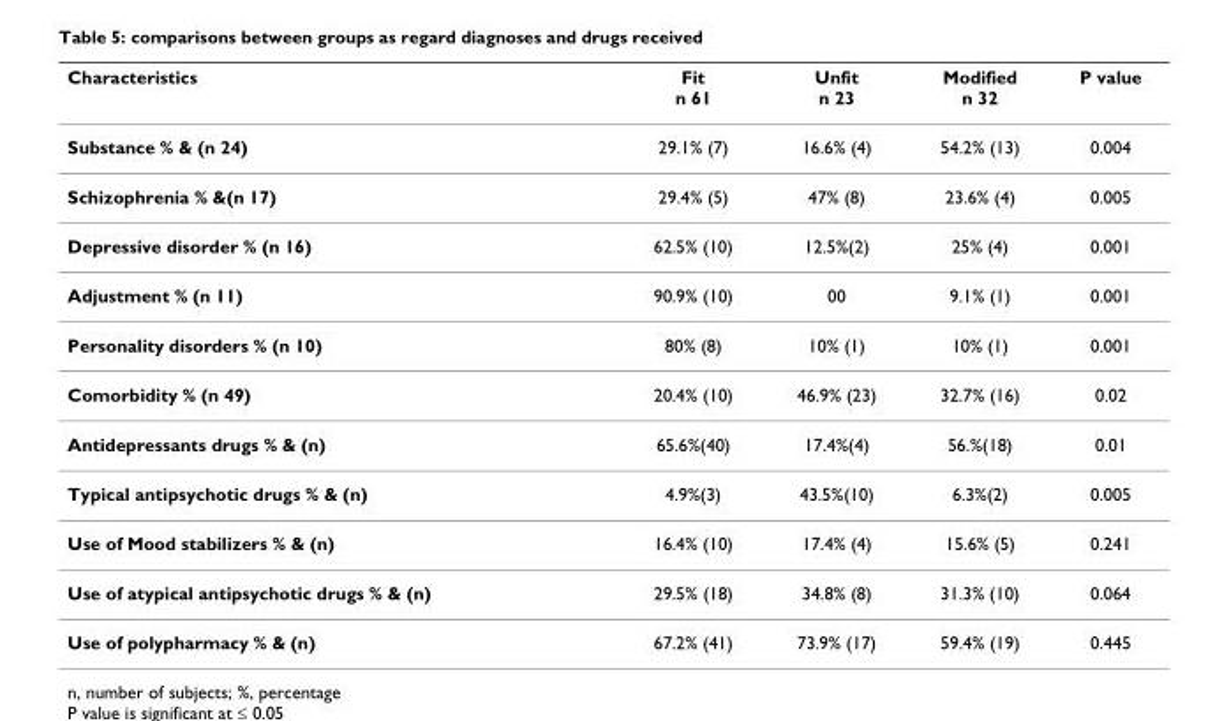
<table><thead><tr><td>Characteristics</td><td>Fit n 61</td><td>Unfit n 23</td><td>Modified n 32</td><td>P value</td></tr></thead><tbody><tr><td>Substance % &amp; (n 24)</td><td>29.1% (7)</td><td>16.6% (4)</td><td>54.2% (13)</td><td>0.004</td></tr><tr><td>Schizophrenia % &amp;(n 17)</td><td>29.4% (5)</td><td>47% (8)</td><td>23.6% (4)</td><td>0.005</td></tr><tr><td>Depressive disorder % (n 16)</td><td>62.5% (10)</td><td>12.5%(2)</td><td>25% (4)</td><td>0.001</td></tr><tr><td>Adjustment % (n 11)</td><td>90.9% (10)</td><td>00</td><td>9.1% (1)</td><td>0.001</td></tr><tr><td>Personality disorders % (n 10)</td><td>80% (8)</td><td>10% (1)</td><td>10% (1)</td><td>0.001</td></tr><tr><td>Comorbidity % (n 49)</td><td>20.4% (10)</td><td>46.9% (23)</td><td>32.7% (16)</td><td>0.02</td></tr><tr><td>Antidepressants drugs % &amp; (n)</td><td>65.6%(40)</td><td>17.4%(4)</td><td>56.%(18)</td><td>0.01</td></tr><tr><td>Typical antipsychotic drugs % &amp; (n)</td><td>4.9%(3)</td><td>43.5%(10)</td><td>6.3%(2)</td><td>0.005</td></tr><tr><td>Use of Mood stabilizers % &amp; (n)</td><td>16.4% (10)</td><td>17.4% (4)</td><td>15.6% (5)</td><td>0.241</td></tr><tr><td>Use of atypical antipsychotic drugs % &amp; (n)</td><td>29.5% (18)</td><td>34.8% (8)</td><td>31.3% (10)</td><td>0.064</td></tr><tr><td>Use of polypharmacy % &amp; (n)</td><td>67.2% (41)</td><td>73.9% (17)</td><td>59.4% (19)</td><td>0.445</td></tr></tbody></table>